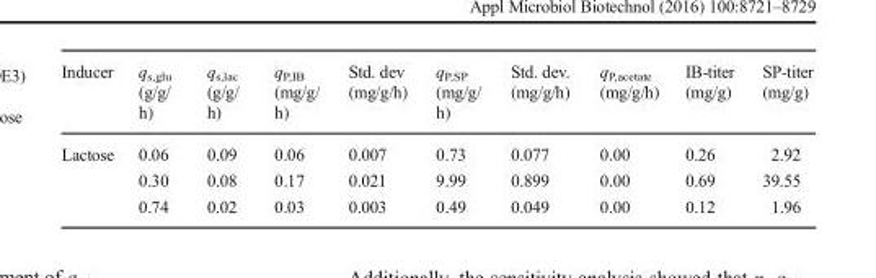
<table><thead><tr><td>Inducer</td><td>q<sub>s,glu</sub> (g/g/ h)</td><td>q<sub>s,lac</sub> (g/g/ h)</td><td>q<sub>P,IB</sub> (mg/g/ h)</td><td>Std. dev (mg/g/h)</td><td>q<sub>P,SP</sub> (mg/g/ h)</td><td>Std. dev. (mg/g/h)</td><td>q<sub>P,acetate</sub> (mg/g/h)</td><td>IB-titer (mg/g)</td><td>SP-titer (mg/g)</td></tr></thead><tbody><tr><td rowspan="3">Lactose</td><td>0.06</td><td>0.09</td><td>0.06</td><td>0.007</td><td>0.73</td><td>0.077</td><td>0.00</td><td>0.26</td><td>2.92</td></tr><tr><td>0.30</td><td>0.08</td><td>0.17</td><td>0.021</td><td>9.99</td><td>0.899</td><td>0.00</td><td>0.69</td><td>39.55</td></tr><tr><td>0.74</td><td>0.02</td><td>0.03</td><td>0.003</td><td>0.49</td><td>0.049</td><td>0.00</td><td>0.12</td><td>1.96</td></tr></tbody></table>